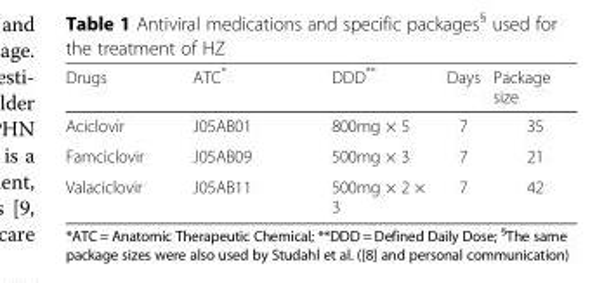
<table><thead><tr><td>Drugs</td><td>ATC*</td><td>DDD**</td><td>Days</td><td>Package size</td></tr></thead><tbody><tr><td>Aciclovir</td><td>J05AB01</td><td>800mg × 5</td><td>7</td><td>35</td></tr><tr><td>Famciclovir</td><td>J05AB09</td><td>500mg × 3</td><td>7</td><td>21</td></tr><tr><td>Valaciclovir</td><td>J05AB11</td><td>500mg × 2 × 3</td><td>7</td><td>42</td></tr></tbody></table>